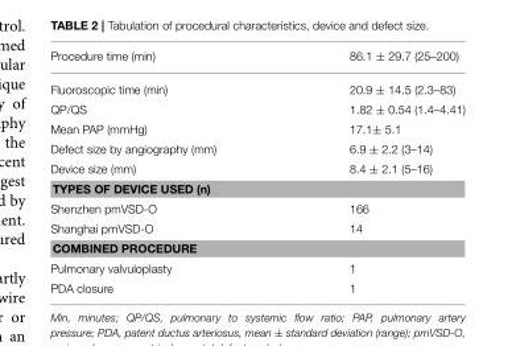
<table><thead><tr><td>Procedure time (min)</td><td>86.1 ± 29.7 (25–200)</td></tr></thead><tbody><tr><td>Fluoroscopic time (min)</td><td>20.9 ± 14.5 (2.3–83)</td></tr><tr><td>QP/QS</td><td>1.82 ± 0.54 (1.4–4.41)</td></tr><tr><td>Mean PAP (mmHg)</td><td>17.1± 5.1</td></tr><tr><td>Defect size by angiography (mm)</td><td>6.9 ± 2.2 (3–14)</td></tr><tr><td>Device size (mm)</td><td>8.4 ± 2.1 (5–16)</td></tr><tr><td colspan="2">TYPES OF DEVICE USED (n)</td></tr><tr><td>Shenzhen pmVSD-O</td><td>166</td></tr><tr><td>Shanghai pmVSD-O</td><td>14</td></tr><tr><td colspan="2">COMBINED PROCEDURE</td></tr><tr><td>Pulmonary valvuloplasty</td><td>1</td></tr><tr><td>PDA closure</td><td>1</td></tr></tbody></table>